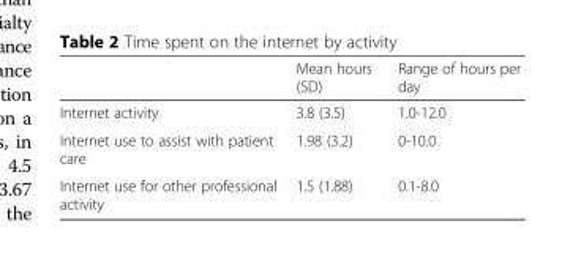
<table><thead><tr><td></td><td>Mean hours (SD)</td><td>Range of hours per day</td></tr></thead><tbody><tr><td>Internet activity</td><td>3.8 (3.5)</td><td>1.0-12.0</td></tr><tr><td>Internet use to assist with patient care</td><td>1.98 (3.2)</td><td>0-10.0</td></tr><tr><td>Internet use for other professional activity</td><td>1.5 (1.88)</td><td>0.1-8.0</td></tr></tbody></table>